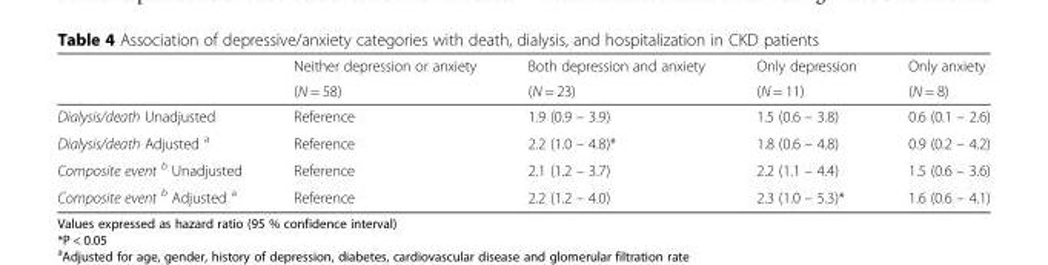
<table><thead><tr><td rowspan="2"></td><td rowspan="2">Neither depression or anxiety (N = 58)</td><td rowspan="2">Both depression and anxiety (N = 23)</td><td rowspan="2">Only depression (N = 11)</td><td rowspan="2">Only anxiety (N = 8)</td></tr><tr></tr></thead><tbody><tr><td>Dialysis/death Unadjusted</td><td>Reference</td><td>1.9 (0.9 – 3.9)</td><td>1.5 (0.6 – 3.8)</td><td>0.6 (0.1 – 2.6)</td></tr><tr><td>Dialysis/death Adjusted <sup>a</sup></td><td>Reference</td><td>2.2 (1.0 – 4.8)*</td><td>1.8 (0.6 – 4.8)</td><td>0.9 (0.2 – 4.2)</td></tr><tr><td>Composite event <sup>b</sup> Unadjusted</td><td>Reference</td><td>2.1 (1.2 – 3.7)</td><td>2.2 (1.1 – 4.4)</td><td>1.5 (0.6 – 3.6)</td></tr><tr><td>Composite event <sup>b</sup> Adjusted <sup>a</sup></td><td>Reference</td><td>2.2 (1.2 – 4.0)</td><td>2.3 (1.0 – 5.3)*</td><td>1.6 (0.6 – 4.1)</td></tr></tbody></table>